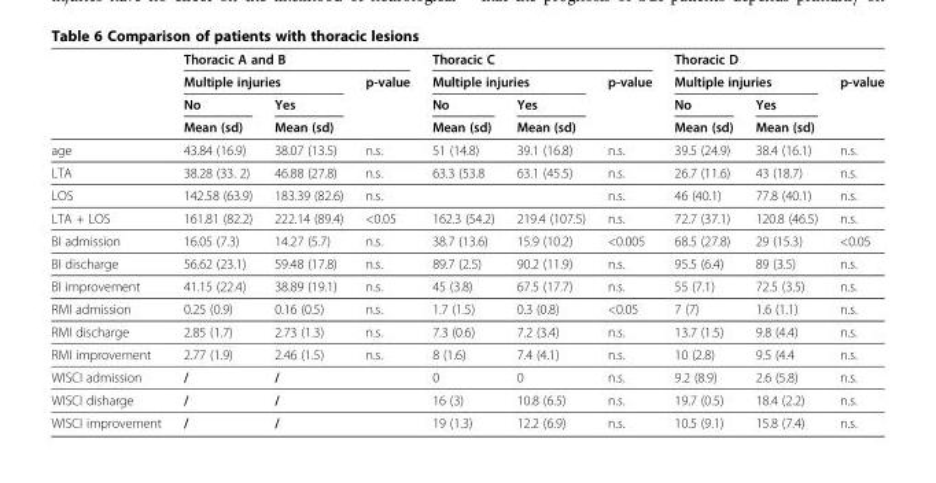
<table><thead><tr><td rowspan="4"></td><td colspan="3">Thoracic A and B</td><td colspan="3">Thoracic C</td><td colspan="3">Thoracic D</td></tr><tr><td colspan="2">Multiple injuries</td><td rowspan="3">p-value</td><td colspan="2">Multiple injuries</td><td rowspan="3">p-value</td><td colspan="2">Multiple injuries</td><td rowspan="3">p-value</td></tr><tr><td rowspan="2">No Mean (sd)</td><td rowspan="2">Yes Mean (sd)</td><td rowspan="2">No Mean (sd)</td><td rowspan="2">Yes Mean (sd)</td><td rowspan="2">No Mean (sd)</td><td rowspan="2">Yes Mean (sd)</td></tr><tr></tr></thead><tbody><tr><td>age</td><td>43.84 (16.9)</td><td>38.07 (13.5)</td><td>n.s.</td><td>51 (14.8)</td><td>39.1 (16.8)</td><td>n.s.</td><td>39.5 (24.9)</td><td>38.4 (16.1)</td><td>n.s.</td></tr><tr><td>LTA</td><td>38.28 (33. 2)</td><td>46.88 (27.8)</td><td>n.s.</td><td>63.3 (53.8</td><td>63.1 (45.5)</td><td>n.s.</td><td>26.7 (11.6)</td><td>43 (18.7)</td><td>n.s.</td></tr><tr><td>LOS</td><td>142.58 (63.9)</td><td>183.39 (82.6)</td><td>n.s.</td><td></td><td></td><td>n.s.</td><td>46 (40.1)</td><td>77.8 (40.1)</td><td>n.s.</td></tr><tr><td>LTA + LOS</td><td>161.81 (82.2)</td><td>222.14 (89.4)</td><td>&lt;0.05</td><td>162.3 (54.2)</td><td>219.4 (107.5)</td><td>n.s.</td><td>72.7 (37.1)</td><td>120.8 (46.5)</td><td>n.s.</td></tr><tr><td>BI admission</td><td>16.05 (7.3)</td><td>14.27 (5.7)</td><td>n.s.</td><td>38.7 (13.6)</td><td>15.9 (10.2)</td><td>&lt;0.005</td><td>68.5 (27.8)</td><td>29 (15.3)</td><td>&lt;0.05</td></tr><tr><td>BI discharge</td><td>56.62 (23.1)</td><td>59.48 (17.8)</td><td>n.s.</td><td>89.7 (2.5)</td><td>90.2 (11.9)</td><td>n.s.</td><td>95.5 (6.4)</td><td>89 (3.5)</td><td>n.s.</td></tr><tr><td>BI improvement</td><td>41.15 (22.4)</td><td>38.89 (19.1)</td><td>n.s.</td><td>45 (3.8)</td><td>67.5 (17.7)</td><td>n.s.</td><td>55 (7.1)</td><td>72.5 (3.5)</td><td>n.s.</td></tr><tr><td>RMI admission</td><td>0.25 (0.9)</td><td>0.16 (0.5)</td><td>n.s.</td><td>1.7 (1.5)</td><td>0.3 (0.8)</td><td>&lt;0.05</td><td>7 (7)</td><td>1.6 (1.1)</td><td>n.s.</td></tr><tr><td>RMI discharge</td><td>2.85 (1.7)</td><td>2.73 (1.3)</td><td>n.s.</td><td>7.3 (0.6)</td><td>7.2 (3.4)</td><td>n.s.</td><td>13.7 (1.5)</td><td>9.8 (4.4)</td><td>n.s.</td></tr><tr><td>RMI improvement</td><td>2.77 (1.9)</td><td>2.46 (1.5)</td><td>n.s.</td><td>8 (1.6)</td><td>7.4 (4.1)</td><td>n.s.</td><td>10 (2.8)</td><td>9.5 (4.4</td><td>n.s.</td></tr><tr><td>WISCI admission</td><td>/</td><td>/</td><td></td><td>0</td><td>0</td><td>n.s.</td><td>9.2 (8.9)</td><td>2.6 (5.8)</td><td>n.s.</td></tr><tr><td>WISCI disharge</td><td>/</td><td>/</td><td></td><td>16 (3)</td><td>10.8 (6.5)</td><td>n.s.</td><td>19.7 (0.5)</td><td>18.4 (2.2)</td><td>n.s.</td></tr><tr><td>WISCI improvement</td><td>/</td><td>/</td><td></td><td>19 (1.3)</td><td>12.2 (6.9)</td><td>n.s.</td><td>10.5 (9.1)</td><td>15.8 (7.4)</td><td>n.s.</td></tr></tbody></table>